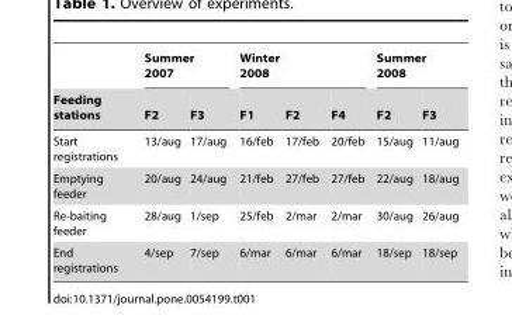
<table><thead><tr><td rowspan="2">Feeding stations</td><td colspan="2">Summer 2007</td><td colspan="3">Winter 2008</td><td colspan="2">Summer 2008</td></tr><tr><td>F2</td><td>F3</td><td>F1</td><td>F2</td><td>F4</td><td>F2</td><td>F3</td></tr></thead><tbody><tr><td>Start registrations</td><td>13/aug</td><td>17/aug</td><td>16/feb</td><td>17/feb</td><td>20/feb</td><td>15/aug</td><td>11/aug</td></tr><tr><td>Emptying feeder</td><td>20/aug</td><td>24/aug</td><td>21/feb</td><td>27/feb</td><td>27/feb</td><td>22/aug</td><td>18/aug</td></tr><tr><td>Re-baiting feeder</td><td>28/aug</td><td>1/sep</td><td>25/feb</td><td>2/mar</td><td>2/mar</td><td>30/aug</td><td>26/aug</td></tr><tr><td>End registrations</td><td>4/sep</td><td>7/sep</td><td>6/mar</td><td>6/mar</td><td>6/mar</td><td>18/sep</td><td>18/sep</td></tr></tbody></table>